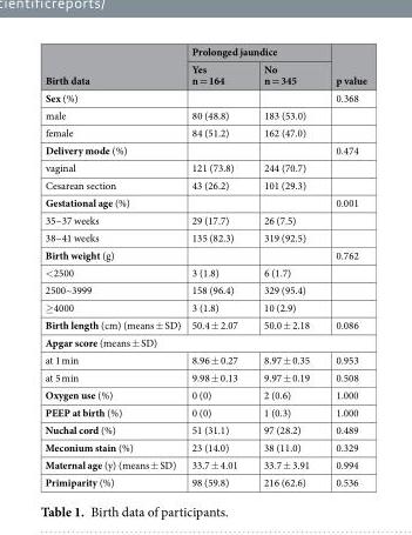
<table><thead><tr><td rowspan="2">Birth data</td><td colspan="2">Prolonged jaundice</td><td rowspan="2">p value</td></tr><tr><td>Yes n = 164</td><td>No n = 345</td></tr></thead><tbody><tr><td>Sex (%)</td><td></td><td></td><td>0.368</td></tr><tr><td>male</td><td>80 (48.8)</td><td>183 (53.0)</td><td></td></tr><tr><td>female</td><td>84 (51.2)</td><td>162 (47.0)</td><td></td></tr><tr><td>Delivery mode (%)</td><td></td><td></td><td>0.474</td></tr><tr><td>vaginal</td><td>121 (73.8)</td><td>244 (70.7)</td><td></td></tr><tr><td>Cesarean section</td><td>43 (26.2)</td><td>101 (29.3)</td><td></td></tr><tr><td>Gestational age (%)</td><td></td><td></td><td>0.001</td></tr><tr><td>35~37 weeks</td><td>29 (17.7)</td><td>26 (7.5)</td><td></td></tr><tr><td>38~41 weeks</td><td>135 (82.3)</td><td>319 (92.5)</td><td></td></tr><tr><td>Birth weight (g)</td><td></td><td></td><td>0.762</td></tr><tr><td>&lt;2500</td><td>3 (1.8)</td><td>6 (1.7)</td><td></td></tr><tr><td>2500~3999</td><td>158 (96.4)</td><td>329 (95.4)</td><td></td></tr><tr><td>≥4000</td><td>3 (1.8)</td><td>10 (2.9)</td><td></td></tr><tr><td>Birth length (cm) (means ± SD)</td><td>50.4 ± 2.07</td><td>50.0 ± 2.18</td><td>0.086</td></tr><tr><td colspan="4">Apgar score (means ± SD)</td></tr><tr><td>at 1 min</td><td>8.96 ± 0.27</td><td>8.97 ± 0.35</td><td>0.953</td></tr><tr><td>at 5 min</td><td>9.98 ± 0.13</td><td>9.97 ± 0.19</td><td>0.508</td></tr><tr><td>Oxygen use (%)</td><td>0 (0)</td><td>2 (0.6)</td><td>1.000</td></tr><tr><td>PEEP at birth (%)</td><td>0 (0)</td><td>1 (0.3)</td><td>1.000</td></tr><tr><td>Nuchal cord (%)</td><td>51 (31.1)</td><td>97 (28.2)</td><td>0.489</td></tr><tr><td>Meconium stain (%)</td><td>23 (14.0)</td><td>38 (11.0)</td><td>0.329</td></tr><tr><td>Maternal age (y) (means ± SD)</td><td>33.7 ± 4.01</td><td>33.7 ± 3.91</td><td>0.994</td></tr><tr><td>Primiparity (%)</td><td>98 (59.8)</td><td>216 (62.6)</td><td>0.536</td></tr></tbody></table>